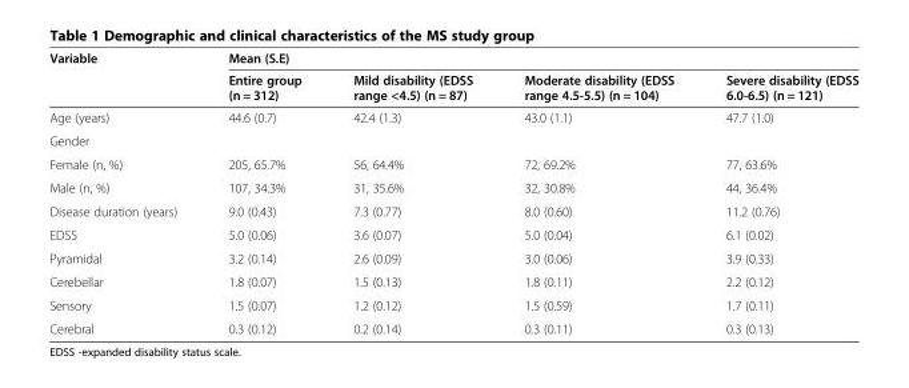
<table><thead><tr><td rowspan="2">Variable</td><td colspan="4">Mean (S.E)</td></tr><tr><td>Entire group (n = 312)</td><td>Mild disability (EDSS range &lt;4.5) (n = 87)</td><td>Moderate disability (EDSS range 4.5-5.5) (n = 104)</td><td>Severe disability (EDSS 6.0-6.5) (n = 121)</td></tr></thead><tbody><tr><td>Age (years)</td><td>44.6 (0.7)</td><td>42.4 (1.3)</td><td>43.0 (1.1)</td><td>47.7 (1.0)</td></tr><tr><td colspan="5">Gender</td></tr><tr><td>Female (n, %)</td><td>205, 65.7%</td><td>56, 64.4%</td><td>72, 69.2%</td><td>77, 63.6%</td></tr><tr><td>Male (n, %)</td><td>107, 34.3%</td><td>31, 35.6%</td><td>32, 30.8%</td><td>44, 36.4%</td></tr><tr><td>Disease duration (years)</td><td>9.0 (0.43)</td><td>7.3 (0.77)</td><td>8.0 (0.60)</td><td>11.2 (0.76)</td></tr><tr><td>EDSS</td><td>5.0 (0.06)</td><td>3.6 (0.07)</td><td>5.0 (0.04)</td><td>6.1 (0.02)</td></tr><tr><td>Pyramidal</td><td>3.2 (0.14)</td><td>2.6 (0.09)</td><td>3.0 (0.06)</td><td>3.9 (0.33)</td></tr><tr><td>Cerebellar</td><td>1.8 (0.07)</td><td>1.5 (0.13)</td><td>1.8 (0.11)</td><td>2.2 (0.12)</td></tr><tr><td>Sensory</td><td>1.5 (0.07)</td><td>1.2 (0.12)</td><td>1.5 (0.59)</td><td>1.7 (0.11)</td></tr><tr><td>Cerebral</td><td>0.3 (0.12)</td><td>0.2 (0.14)</td><td>0.3 (0.11)</td><td>0.3 (0.13)</td></tr></tbody></table>